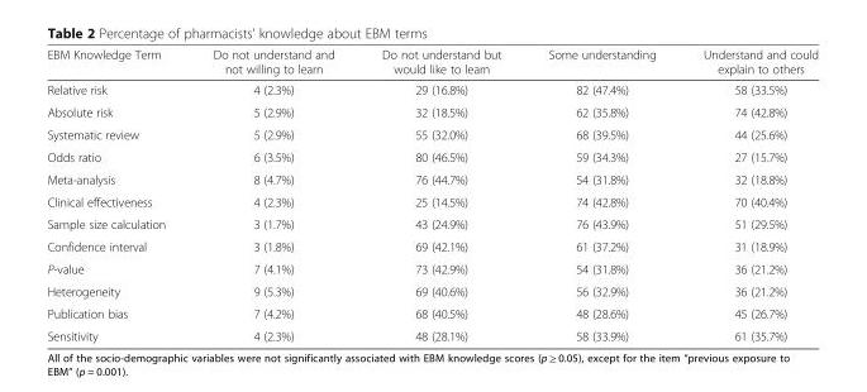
<table><thead><tr><td>EBM Knowledge Term</td><td>Do not understand and not willing to learn</td><td>Do not understand but would like to learn</td><td>Some understanding</td><td>Understand and could explain to others</td></tr></thead><tbody><tr><td>Relative risk</td><td>4 (2.3%)</td><td>29 (16.8%)</td><td>82 (47.4%)</td><td>58 (33.5%)</td></tr><tr><td>Absolute risk</td><td>5 (2.9%)</td><td>32 (18.5%)</td><td>62 (35.8%)</td><td>74 (42.8%)</td></tr><tr><td>Systematic review</td><td>5 (2.9%)</td><td>55 (32.0%)</td><td>68 (39.5%)</td><td>44 (25.6%)</td></tr><tr><td>Odds ratio</td><td>6 (3.5%)</td><td>80 (46.5%)</td><td>59 (34.3%)</td><td>27 (15.7%)</td></tr><tr><td>Meta-analysis</td><td>8 (4.7%)</td><td>76 (44.7%)</td><td>54 (31.8%)</td><td>32 (18.8%)</td></tr><tr><td>Clinical effectiveness</td><td>4 (2.3%)</td><td>25 (14.5%)</td><td>74 (42.8%)</td><td>70 (40.4%)</td></tr><tr><td>Sample size calculation</td><td>3 (1.7%)</td><td>43 (24.9%)</td><td>76 (43.9%)</td><td>51 (29.5%)</td></tr><tr><td>Confidence interval</td><td>3 (1.8%)</td><td>69 (42.1%)</td><td>61 (37.2%)</td><td>31 (18.9%)</td></tr><tr><td>P-value</td><td>7 (4.1%)</td><td>73 (42.9%)</td><td>54 (31.8%)</td><td>36 (21.2%)</td></tr><tr><td>Heterogeneity</td><td>9 (5.3%)</td><td>69 (40.6%)</td><td>56 (32.9%)</td><td>36 (21.2%)</td></tr><tr><td>Publication bias</td><td>7 (4.2%)</td><td>68 (40.5%)</td><td>48 (28.6%)</td><td>45 (26.7%)</td></tr><tr><td>Sensitivity</td><td>4 (2.3%)</td><td>48 (28.1%)</td><td>58 (33.9%)</td><td>61 (35.7%)</td></tr></tbody></table>